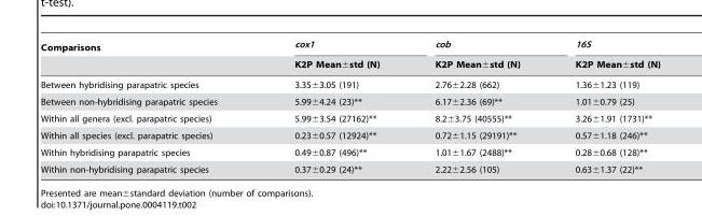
<table><thead><tr><td rowspan="2">Comparisons</td><td rowspan="2">cox1 K2P Mean±std (N)</td><td rowspan="2">cob K2P Mean±std (N)</td><td rowspan="2">16S K2P Mean±std (N)</td></tr><tr></tr></thead><tbody><tr><td>Between hybridising parapatric species</td><td>3.35±3.05 (191)</td><td>2.76±2.28 (662)</td><td>1.36±1.23 (119)</td></tr><tr><td>Between non-hybridising parapatric species</td><td>5.99±4.24 (23)**</td><td>6.17±2.36 (69)**</td><td>1.01±0.79 (25)</td></tr><tr><td>Within all genera (excl. parapatric species)</td><td>5.99±3.54 (27162)**</td><td>8.2±3.75 (40555)**</td><td>3.26±1.91 (1731)**</td></tr><tr><td>Within all species (excl. parapatric species)</td><td>0.23±0.57 (12924)**</td><td>0.72±1.15 (29191)**</td><td>0.57±1.18 (246)**</td></tr><tr><td>Within hybridising parapatric species</td><td>0.49±0.87 (496)**</td><td>1.01±1.67 (2488)**</td><td>0.28±0.68 (128)**</td></tr><tr><td>Within non-hybridising parapatric species</td><td>0.37±0.29 (24)**</td><td>2.22±2.56 (105)</td><td>0.63±1.37 (22)**</td></tr></tbody></table>